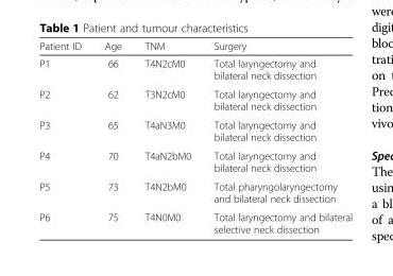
<table><thead><tr><td>Patient ID</td><td>Age</td><td>TNM</td><td>Surgery</td></tr></thead><tbody><tr><td>P1</td><td>66</td><td>T4N2cM0</td><td>Total laryngectomy and bilateral neck dissection</td></tr><tr><td>P2</td><td>62</td><td>T3N2cM0</td><td>Total laryngectomy and bilateral neck dissection</td></tr><tr><td>P3</td><td>65</td><td>T4aN3M0</td><td>Total laryngectomy and bilateral neck dissection</td></tr><tr><td>P4</td><td>70</td><td>T4aN2bM0</td><td>Total laryngectomy and bilateral neck dissection</td></tr><tr><td>P5</td><td>73</td><td>T4N2bM0</td><td>Total pharyngolaryngectomy and bilateral neck dissection</td></tr><tr><td>P6</td><td>75</td><td>T4N0M0</td><td>Total laryngectomy and bilateral selective neck dissection</td></tr></tbody></table>